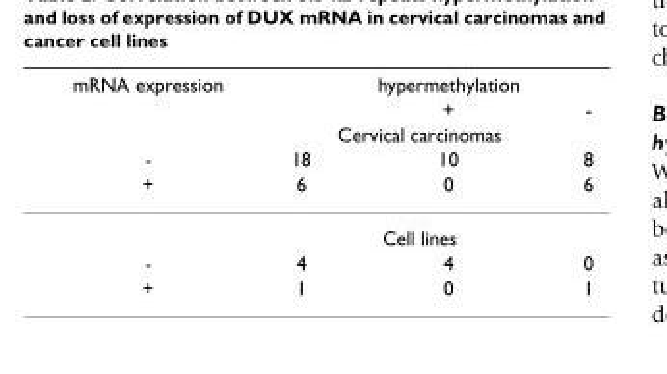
<table><thead><tr><td rowspan="5">mRNA expression - +</td><td rowspan="2"></td><td rowspan="2">hypermethylation +</td><td rowspan="5">- 8 6</td></tr><tr></tr><tr><td colspan="2">Cervical carcinomas</td></tr><tr><td rowspan="2">18 6</td><td rowspan="2">10 0</td></tr><tr></tr></thead><tbody><tr><td></td><td colspan="2">Cell lines</td><td></td></tr><tr><td>-</td><td>4</td><td>4</td><td>0</td></tr><tr><td>+</td><td>1</td><td>0</td><td>1</td></tr></tbody></table>